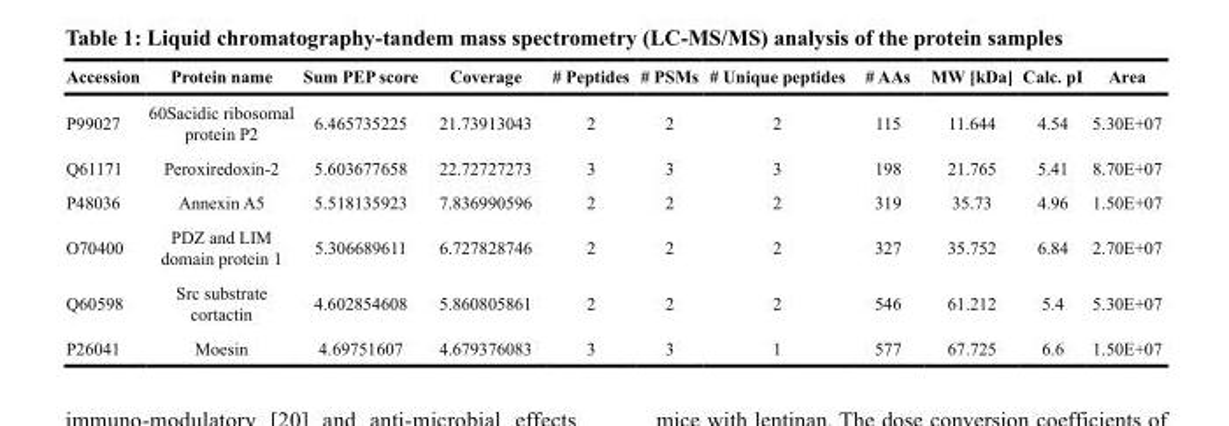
<table><thead><tr><td>Accession</td><td>Protein name</td><td>Sum PEP score</td><td>Coverage</td><td># Peptides</td><td># PSMs</td><td># Unique peptides</td><td># AAs</td><td>MW [kDa]</td><td>Calc. pI</td><td>Area</td></tr></thead><tbody><tr><td>P99027</td><td>60Sacidic ribosomal protein P2</td><td>6.465735225</td><td>21.73913043</td><td>2</td><td>2</td><td>2</td><td>115</td><td>11.644</td><td>4.54</td><td>5.30E+07</td></tr><tr><td>Q61171</td><td>Peroxiredoxin-2</td><td>5.603677658</td><td>22.72727273</td><td>3</td><td>3</td><td>3</td><td>198</td><td>21.765</td><td>5.41</td><td>8.70E+07</td></tr><tr><td>P48036</td><td>Annexin A5</td><td>5.518135923</td><td>7.836990596</td><td>2</td><td>2</td><td>2</td><td>319</td><td>35.73</td><td>4.96</td><td>1.50E+07</td></tr><tr><td>O70400</td><td>PDZ and LIM domain protein 1</td><td>5.306689611</td><td>6.727828746</td><td>2</td><td>2</td><td>2</td><td>327</td><td>35.752</td><td>6.84</td><td>2.70E+07</td></tr><tr><td>Q60598</td><td>Src substrate cortactin</td><td>4.602854608</td><td>5.860805861</td><td>2</td><td>2</td><td>2</td><td>546</td><td>61.212</td><td>5.4</td><td>5.30E+07</td></tr><tr><td>P26041</td><td>Moesin</td><td>4.69751607</td><td>4.679376083</td><td>3</td><td>3</td><td>1</td><td>577</td><td>67.725</td><td>6.6</td><td>1.50E+07</td></tr></tbody></table>